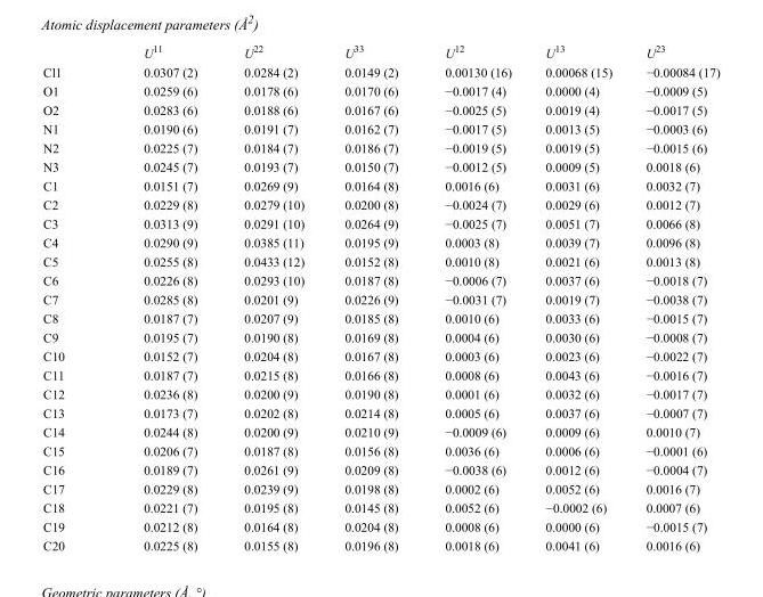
<table><thead><tr><td></td><td>U<sup>11</sup></td><td>U<sup>22</sup></td><td>U<sup>33</sup></td><td>U<sup>12</sup></td><td>U<sup>13</sup></td><td>U<sup>23</sup></td></tr></thead><tbody><tr><td>Cl1</td><td>0.0307 (2)</td><td>0.0284 (2)</td><td>0.0149 (2)</td><td>0.00130 (16)</td><td>0.00068 (15)</td><td>−0.00084 (17)</td></tr><tr><td>O1</td><td>0.0259 (6)</td><td>0.0178 (6)</td><td>0.0170 (6)</td><td>−0.0017 (4)</td><td>0.0000 (4)</td><td>−0.0009 (5)</td></tr><tr><td>O2</td><td>0.0283 (6)</td><td>0.0188 (6)</td><td>0.0167 (6)</td><td>−0.0025 (5)</td><td>0.0019 (4)</td><td>−0.0017 (5)</td></tr><tr><td>N1</td><td>0.0190 (6)</td><td>0.0191 (7)</td><td>0.0162 (7)</td><td>−0.0017 (5)</td><td>0.0013 (5)</td><td>−0.0003 (6)</td></tr><tr><td>N2</td><td>0.0225 (7)</td><td>0.0184 (7)</td><td>0.0186 (7)</td><td>−0.0019 (5)</td><td>0.0019 (5)</td><td>−0.0015 (6)</td></tr><tr><td>N3</td><td>0.0245 (7)</td><td>0.0193 (7)</td><td>0.0150 (7)</td><td>−0.0012 (5)</td><td>0.0009 (5)</td><td>0.0018 (6)</td></tr><tr><td>C1</td><td>0.0151 (7)</td><td>0.0269 (9)</td><td>0.0164 (8)</td><td>0.0016 (6)</td><td>0.0031 (6)</td><td>0.0032 (7)</td></tr><tr><td>C2</td><td>0.0229 (8)</td><td>0.0279 (10)</td><td>0.0200 (8)</td><td>−0.0024 (7)</td><td>0.0029 (6)</td><td>0.0012 (7)</td></tr><tr><td>C3</td><td>0.0313 (9)</td><td>0.0291 (10)</td><td>0.0264 (9)</td><td>−0.0025 (7)</td><td>0.0051 (7)</td><td>0.0066 (8)</td></tr><tr><td>C4</td><td>0.0290 (9)</td><td>0.0385 (11)</td><td>0.0195 (9)</td><td>0.0003 (8)</td><td>0.0039 (7)</td><td>0.0096 (8)</td></tr><tr><td>C5</td><td>0.0255 (8)</td><td>0.0433 (12)</td><td>0.0152 (8)</td><td>0.0010 (8)</td><td>0.0021 (6)</td><td>0.0013 (8)</td></tr><tr><td>C6</td><td>0.0226 (8)</td><td>0.0293 (10)</td><td>0.0187 (8)</td><td>−0.0006 (7)</td><td>0.0037 (6)</td><td>−0.0018 (7)</td></tr><tr><td>C7</td><td>0.0285 (8)</td><td>0.0201 (9)</td><td>0.0226 (9)</td><td>−0.0031 (7)</td><td>0.0019 (7)</td><td>−0.0038 (7)</td></tr><tr><td>C8</td><td>0.0187 (7)</td><td>0.0207 (9)</td><td>0.0185 (8)</td><td>0.0010 (6)</td><td>0.0033 (6)</td><td>−0.0015 (7)</td></tr><tr><td>C9</td><td>0.0195 (7)</td><td>0.0190 (8)</td><td>0.0169 (8)</td><td>0.0004 (6)</td><td>0.0030 (6)</td><td>−0.0008 (7)</td></tr><tr><td>C10</td><td>0.0152 (7)</td><td>0.0204 (8)</td><td>0.0167 (8)</td><td>0.0003 (6)</td><td>0.0023 (6)</td><td>−0.0022 (7)</td></tr><tr><td>C11</td><td>0.0187 (7)</td><td>0.0215 (8)</td><td>0.0166 (8)</td><td>0.0008 (6)</td><td>0.0043 (6)</td><td>−0.0016 (7)</td></tr><tr><td>C12</td><td>0.0236 (8)</td><td>0.0200 (9)</td><td>0.0190 (8)</td><td>0.0001 (6)</td><td>0.0032 (6)</td><td>−0.0017 (7)</td></tr><tr><td>C13</td><td>0.0173 (7)</td><td>0.0202 (8)</td><td>0.0214 (8)</td><td>0.0005 (6)</td><td>0.0037 (6)</td><td>−0.0007 (7)</td></tr><tr><td>C14</td><td>0.0244 (8)</td><td>0.0200 (9)</td><td>0.0210 (9)</td><td>−0.0009 (6)</td><td>0.0009 (6)</td><td>0.0010 (7)</td></tr><tr><td>C15</td><td>0.0206 (7)</td><td>0.0187 (8)</td><td>0.0156 (8)</td><td>0.0036 (6)</td><td>0.0006 (6)</td><td>−0.0001 (6)</td></tr><tr><td>C16</td><td>0.0189 (7)</td><td>0.0261 (9)</td><td>0.0209 (8)</td><td>−0.0038 (6)</td><td>0.0012 (6)</td><td>−0.0004 (7)</td></tr><tr><td>C17</td><td>0.0229 (8)</td><td>0.0239 (9)</td><td>0.0198 (8)</td><td>0.0002 (6)</td><td>0.0052 (6)</td><td>0.0016 (7)</td></tr><tr><td>C18</td><td>0.0221 (7)</td><td>0.0195 (8)</td><td>0.0145 (8)</td><td>0.0052 (6)</td><td>−0.0002 (6)</td><td>0.0007 (6)</td></tr><tr><td>C19</td><td>0.0212 (8)</td><td>0.0164 (8)</td><td>0.0204 (8)</td><td>0.0008 (6)</td><td>0.0000 (6)</td><td>−0.0015 (7)</td></tr><tr><td>C20</td><td>0.0225 (8)</td><td>0.0155 (8)</td><td>0.0196 (8)</td><td>0.0018 (6)</td><td>0.0041 (6)</td><td>0.0016 (6)</td></tr></tbody></table>